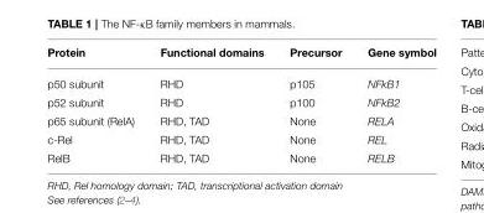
<table><thead><tr><td>Protein</td><td>Functional domains</td><td>Precursor</td><td>Gene symbol</td></tr></thead><tbody><tr><td>p50 subunit</td><td>RHD</td><td>p105</td><td>NFkB1</td></tr><tr><td>p52 subunit</td><td>RHD</td><td>p100</td><td>NFkB2</td></tr><tr><td>p65 subunit (RelA)</td><td>RHD, TAD</td><td>None</td><td>RELA</td></tr><tr><td>c-Rel</td><td>RHD, TAD</td><td>None</td><td>REL</td></tr><tr><td>RelB</td><td>RHD, TAD</td><td>None</td><td>RELB</td></tr></tbody></table>